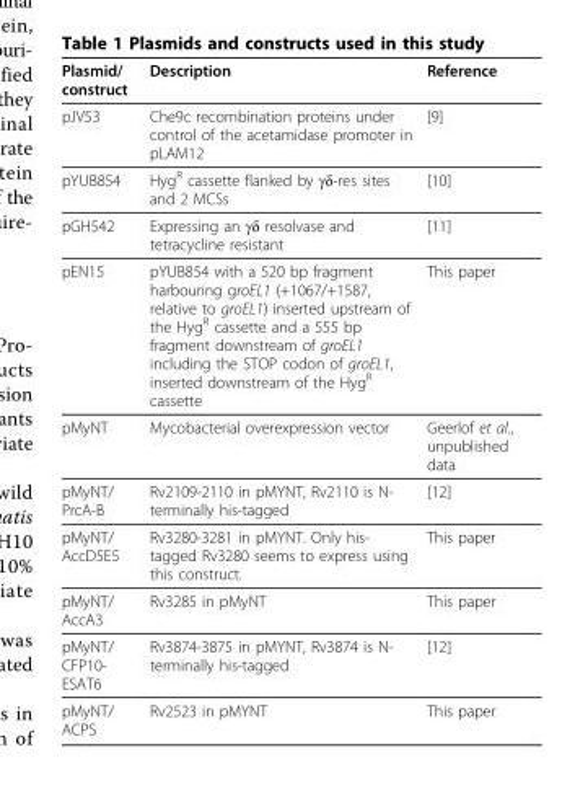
<table><thead><tr><td>Plasmid/ construct</td><td>Description</td><td>Reference</td></tr></thead><tbody><tr><td>pJV53</td><td>Che9c recombination proteins under control of the acetamidase promoter in pLAM12</td><td>[9]</td></tr><tr><td>pYUB854</td><td>Hyg<sup>R</sup> cassette flanked by γδ-res sites and 2 MCSs</td><td>[10]</td></tr><tr><td>pGH542</td><td>Expressing an γδ resolvase and tetracycline resistant</td><td>[11]</td></tr><tr><td>pEN15</td><td>pYUB854 with a 520 bp fragment harbouring groEL1 (+1067/+1587, relative to groEL1) inserted upstream of the Hyg<sup>R</sup> cassette and a 555 bp fragment downstream of groEL1 including the STOP codon of groEL1, inserted downstream of the Hyg<sup>R</sup> cassette</td><td>This paper</td></tr><tr><td>pMyNT</td><td>Mycobacterial overexpression vector</td><td>Geerlof et al., unpublished data</td></tr><tr><td>pMyNT/ PrcA-B</td><td>Rv2109-2110 in pMYNT, Rv2110 is N- terminally his-tagged</td><td>[12]</td></tr><tr><td>pMyNT/ AccD5E5</td><td>Rv3280-3281 in pMYNT. Only his- tagged Rv3280 seems to express using this construct.</td><td>This paper</td></tr><tr><td>pMyNT/ AccA3</td><td>Rv3285 in pMyNT</td><td>This paper</td></tr><tr><td>pMyNT/ CFP10- ESAT6</td><td>Rv3874-3875 in pMYNT, Rv3874 is N- terminally his-tagged</td><td>[12]</td></tr><tr><td>pMyNT/ ACPS</td><td>Rv2523 in pMYNT</td><td>This paper</td></tr></tbody></table>